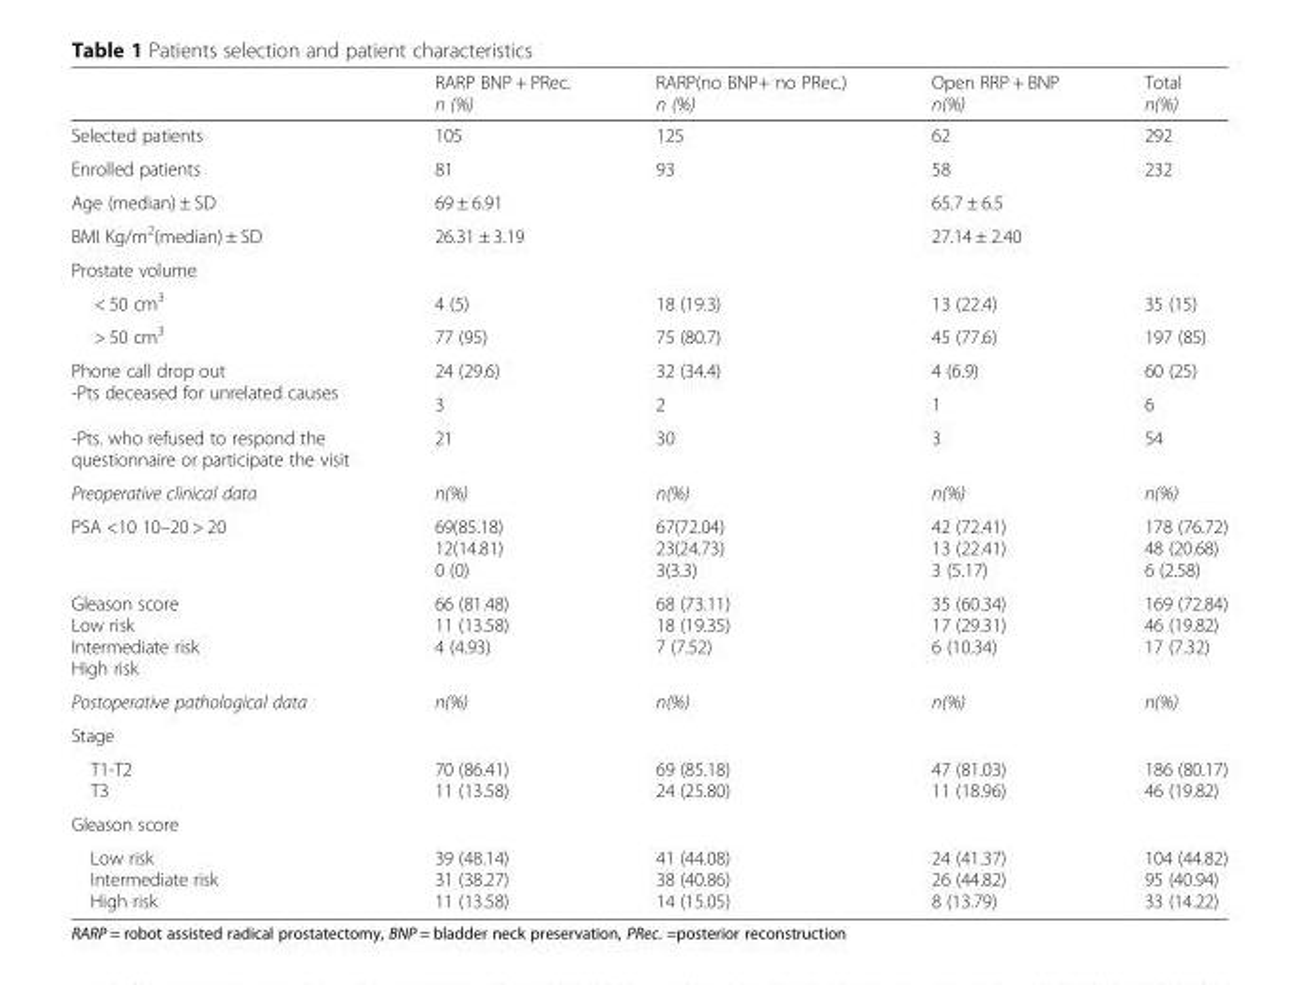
<table><thead><tr><td></td><td>RARP BNP + PRec. n (%)</td><td>RARP(no BNP+ no PRec.) n (%)</td><td>Open RRP + BNP n(%)</td><td>Total n(%)</td></tr></thead><tbody><tr><td>Selected patients</td><td>105</td><td>125</td><td>62</td><td>292</td></tr><tr><td>Enrolled patients</td><td>81</td><td>93</td><td>58</td><td>232</td></tr><tr><td>Age (median) ± SD</td><td colspan="2">69 ± 6.91</td><td colspan="2">65.7 ± 6.5</td></tr><tr><td>BMI Kg/m<sup>2</sup>(median) ± SD</td><td colspan="2">26.31 ± 3.19</td><td colspan="2">27.14 ± 2.40</td></tr><tr><td colspan="5">Prostate volume</td></tr><tr><td>&lt; 50 cm<sup>3</sup></td><td>4 (5)</td><td>18 (19.3)</td><td>13 (22.4)</td><td>35 (15)</td></tr><tr><td>&gt; 50 cm<sup>3</sup></td><td>77 (95)</td><td>75 (80.7)</td><td>45 (77.6)</td><td>197 (85)</td></tr><tr><td rowspan="2">Phone call drop out -Pts deceased for unrelated causes</td><td>24 (29.6)</td><td>32 (34.4)</td><td>4 (6.9)</td><td>60 (25)</td></tr><tr><td>3</td><td>2</td><td>1</td><td>6</td></tr><tr><td>-Pts. who refused to respond the questionnaire or participate the visit</td><td>21</td><td>30</td><td>3</td><td>54</td></tr><tr><td>Preoperative clinical data</td><td>n(%)</td><td>n(%)</td><td>n(%)</td><td>n(%)</td></tr><tr><td>PSA &lt;10 10–20 &gt; 20</td><td>69(85.18) 12(14.81) 0 (0)</td><td>67(72.04) 23(24.73) 3(3.3)</td><td>42 (72.41) 13 (22.41) 3 (5.17)</td><td>178 (76.72) 48 (20.68) 6 (2.58)</td></tr><tr><td>Gleason score Low risk Intermediate risk High risk</td><td>66 (81.48) 11 (13.58) 4 (4.93)</td><td>68 (73.11) 18 (19.35) 7 (7.52)</td><td>35 (60.34) 17 (29.31) 6 (10.34)</td><td>169 (72.84) 46 (19.82) 17 (7.32)</td></tr><tr><td>Postoperative pathological data</td><td>n(%)</td><td>n(%)</td><td>n(%)</td><td>n(%)</td></tr><tr><td colspan="5">Stage</td></tr><tr><td>T1-T2 T3</td><td>70 (86.41) 11 (13.58)</td><td>69 (85.18) 24 (25.80)</td><td>47 (81.03) 11 (18.96)</td><td>186 (80.17) 46 (19.82)</td></tr><tr><td colspan="5">Gleason score</td></tr><tr><td>Low risk Intermediate risk High risk</td><td>39 (48.14) 31 (38.27) 11 (13.58)</td><td>41 (44.08) 38 (40.86) 14 (15.05)</td><td>24 (41.37) 26 (44.82) 8 (13.79)</td><td>104 (44.82) 95 (40.94) 33 (14.22)</td></tr></tbody></table>